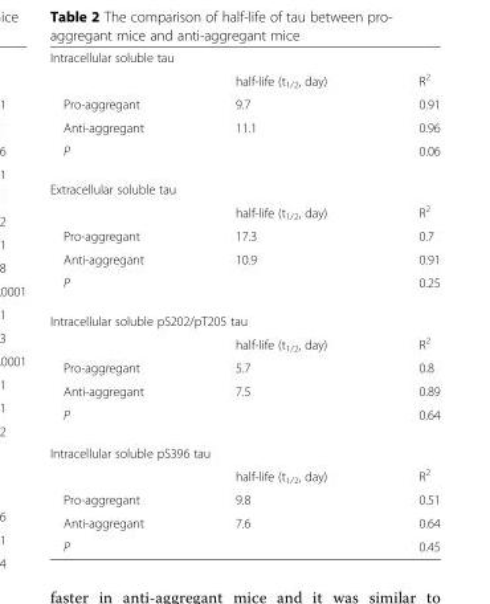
<table><tbody><tr><td colspan="3">Intracellular soluble tau</td></tr><tr><td></td><td>half-life (t<sub>1/2</sub>, day)</td><td>R<sup>2</sup></td></tr><tr><td>Pro-aggregant</td><td>9.7</td><td>0.91</td></tr><tr><td>Anti-aggregant</td><td>11.1</td><td>0.96</td></tr><tr><td>P</td><td></td><td>0.06</td></tr><tr><td colspan="3">Extracellular soluble tau</td></tr><tr><td></td><td>half-life (t<sub>1/2</sub>, day)</td><td>R<sup>2</sup></td></tr><tr><td>Pro-aggregant</td><td>17.3</td><td>0.7</td></tr><tr><td>Anti-aggregant</td><td>10.9</td><td>0.91</td></tr><tr><td>P</td><td></td><td>0.25</td></tr><tr><td colspan="3">Intracellular soluble pS202/pT205 tau</td></tr><tr><td></td><td>half-life (t<sub>1/2</sub>, day)</td><td>R<sup>2</sup></td></tr><tr><td>Pro-aggregant</td><td>5.7</td><td>0.8</td></tr><tr><td>Anti-aggregant</td><td>7.5</td><td>0.89</td></tr><tr><td>P</td><td></td><td>0.64</td></tr><tr><td colspan="3">Intracellular soluble pS396 tau</td></tr><tr><td></td><td>half-life (t<sub>1/2</sub>, day)</td><td>R<sup>2</sup></td></tr><tr><td>Pro-aggregant</td><td>9.8</td><td>0.51</td></tr><tr><td>Anti-aggregant</td><td>7.6</td><td>0.64</td></tr><tr><td>P</td><td></td><td>0.45</td></tr></tbody></table>